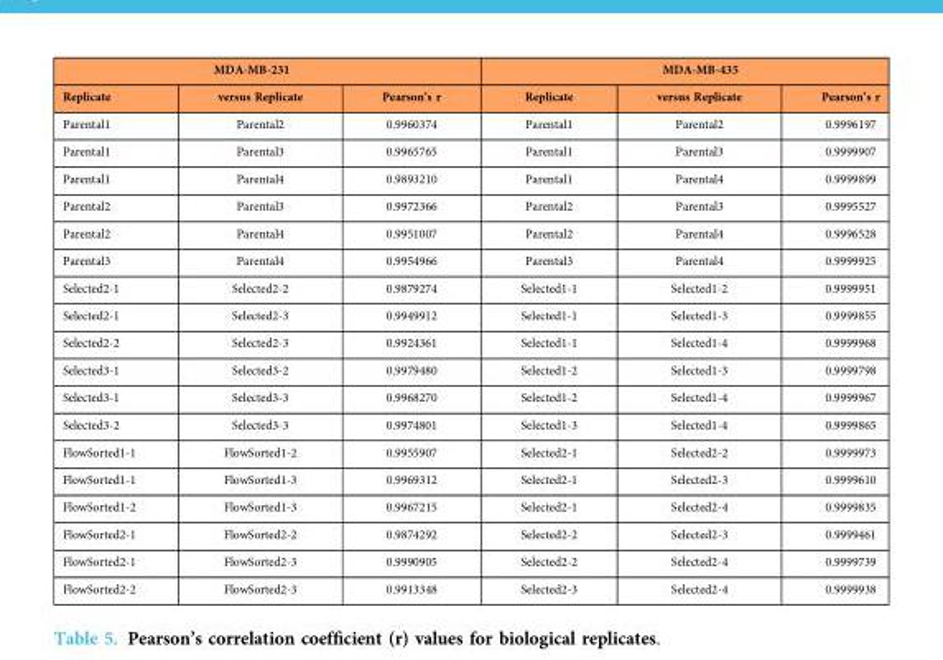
<table><thead><tr><td colspan="3">MDA-MB-231</td><td colspan="3">MDA-MB-435</td></tr><tr><td>Replicate</td><td>versus Replicate</td><td>Pearson’s r</td><td>Replicate</td><td>versus Replicate</td><td>Pearson’s r</td></tr></thead><tbody><tr><td>Parental1</td><td>Parental2</td><td>0.9960374</td><td>Parental1</td><td>Parental2</td><td>0.9996197</td></tr><tr><td>Parental1</td><td>Parental3</td><td>0.9965765</td><td>Parental1</td><td>Parental3</td><td>0.9999907</td></tr><tr><td>Parental1</td><td>Parental4</td><td>0.9893210</td><td>Parental1</td><td>Parental4</td><td>0.9999899</td></tr><tr><td>Parental2</td><td>Parental3</td><td>0.9972366</td><td>Parental2</td><td>Parental3</td><td>0.9995527</td></tr><tr><td>Parental2</td><td>Parental4</td><td>0.9951007</td><td>Parental2</td><td>Parental4</td><td>0.9996528</td></tr><tr><td>Parental3</td><td>Parental4</td><td>0.9954966</td><td>Parental3</td><td>Parental4</td><td>0.9999925</td></tr><tr><td>Selected2-1</td><td>Selected2-2</td><td>0.9879274</td><td>Selected1-1</td><td>Selected1-2</td><td>0.9999951</td></tr><tr><td>Selected2-1</td><td>Selected2-3</td><td>0.9949912</td><td>Selected1-1</td><td>Selected1-3</td><td>0.9999855</td></tr><tr><td>Selected2-2</td><td>Selected2-3</td><td>0.9924361</td><td>Selected1-1</td><td>Selected1-4</td><td>0.9999968</td></tr><tr><td>Selected3-1</td><td>Selected3-2</td><td>0.9979480</td><td>Selected1-2</td><td>Selected1-3</td><td>0.9999798</td></tr><tr><td>Selected3-1</td><td>Selected3-3</td><td>0.9968270</td><td>Selected1-2</td><td>Selected1-4</td><td>0.9999967</td></tr><tr><td>Selected3-2</td><td>Selected3-3</td><td>0.9974801</td><td>Selected1-3</td><td>Selected1-4</td><td>0.9999865</td></tr><tr><td>FlowSorted1-1</td><td>FlowSorted1-2</td><td>0.9955907</td><td>Selected2-1</td><td>Selected2-2</td><td>0.9999973</td></tr><tr><td>FlowSorted1-1</td><td>FlowSorted1-3</td><td>0.9969312</td><td>Selected2-1</td><td>Selected2-3</td><td>0.9999610</td></tr><tr><td>FlowSorted1-2</td><td>FlowSorted1-3</td><td>0.9967215</td><td>Selected2-1</td><td>Selected2-4</td><td>0.9999835</td></tr><tr><td>FlowSorted2-1</td><td>FlowSorted2-2</td><td>0.9874292</td><td>Selected2-2</td><td>Selected2-3</td><td>0.9999461</td></tr><tr><td>FlowSorted2-1</td><td>FlowSorted2-3</td><td>0.9990905</td><td>Selected2-2</td><td>Selected2-4</td><td>0.9999739</td></tr><tr><td>FlowSorted2-2</td><td>FlowSorted2-3</td><td>0.9913348</td><td>Selected2-3</td><td>Selected2-4</td><td>0.9999938</td></tr></tbody></table>